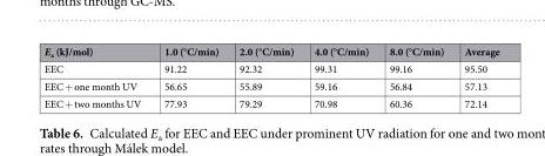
<table><thead><tr><td>E<sub>a</sub> (kJ/mol)</td><td>1.0 (°C/min)</td><td>2.0 (°C/min)</td><td>4.0 (°C/min)</td><td>8.0 (°C/min)</td><td>Average</td></tr></thead><tbody><tr><td>EEC</td><td>91.22</td><td>92.32</td><td>99.31</td><td>99.16</td><td>95.50</td></tr><tr><td>EEC + one month UV</td><td>56.65</td><td>55.89</td><td>59.16</td><td>56.84</td><td>57.13</td></tr><tr><td>EEC + two months UV</td><td>77.93</td><td>79.29</td><td>70.98</td><td>60.36</td><td>72.14</td></tr></tbody></table>